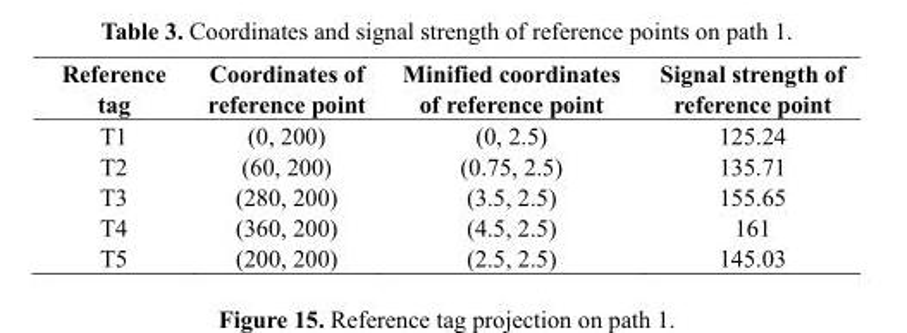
<table><thead><tr><td>Reference tag</td><td>Coordinates of reference point</td><td>Minified coordinates of reference point</td><td>Signal strength of reference point</td></tr></thead><tbody><tr><td>T1</td><td>(0, 200)</td><td>(0, 2.5)</td><td>125.24</td></tr><tr><td>T2</td><td>(60, 200)</td><td>(0.75, 2.5)</td><td>135.71</td></tr><tr><td>T3</td><td>(280, 200)</td><td>(3.5, 2.5)</td><td>155.65</td></tr><tr><td>T4</td><td>(360, 200)</td><td>(4.5, 2.5)</td><td>161</td></tr><tr><td>T5</td><td>(200, 200)</td><td>(2.5, 2.5)</td><td>145.03</td></tr></tbody></table>